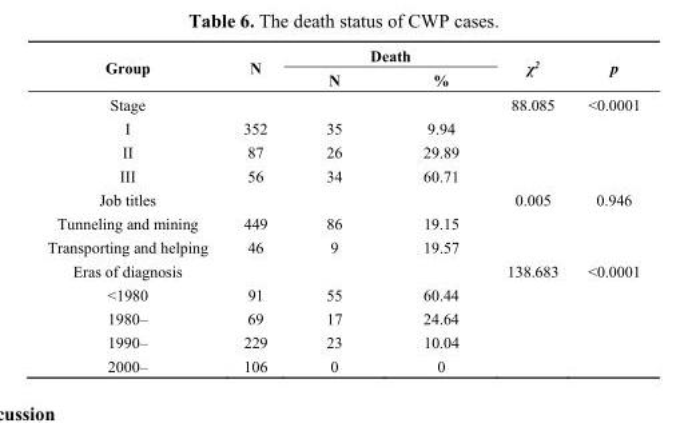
<table><thead><tr><td rowspan="2">Group</td><td rowspan="2">N</td><td colspan="2">Death</td><td rowspan="2">χ<sup>2</sup></td><td rowspan="2">p</td></tr><tr><td>N</td><td>%</td></tr></thead><tbody><tr><td>Stage</td><td></td><td></td><td></td><td>88.085</td><td>&lt;0.0001</td></tr><tr><td>I</td><td>352</td><td>35</td><td>9.94</td><td></td><td></td></tr><tr><td>II</td><td>87</td><td>26</td><td>29.89</td><td></td><td></td></tr><tr><td>III</td><td>56</td><td>34</td><td>60.71</td><td></td><td></td></tr><tr><td>Job titles</td><td></td><td></td><td></td><td>0.005</td><td>0.946</td></tr><tr><td>Tunneling and mining</td><td>449</td><td>86</td><td>19.15</td><td></td><td></td></tr><tr><td>Transporting and helping</td><td>46</td><td>9</td><td>19.57</td><td></td><td></td></tr><tr><td>Eras of diagnosis</td><td></td><td></td><td></td><td>138.683</td><td>&lt;0.0001</td></tr><tr><td>&lt;1980</td><td>91</td><td>55</td><td>60.44</td><td></td><td></td></tr><tr><td>1980–</td><td>69</td><td>17</td><td>24.64</td><td></td><td></td></tr><tr><td>1990–</td><td>229</td><td>23</td><td>10.04</td><td></td><td></td></tr><tr><td>2000–</td><td>106</td><td>0</td><td>0</td><td></td><td></td></tr></tbody></table>